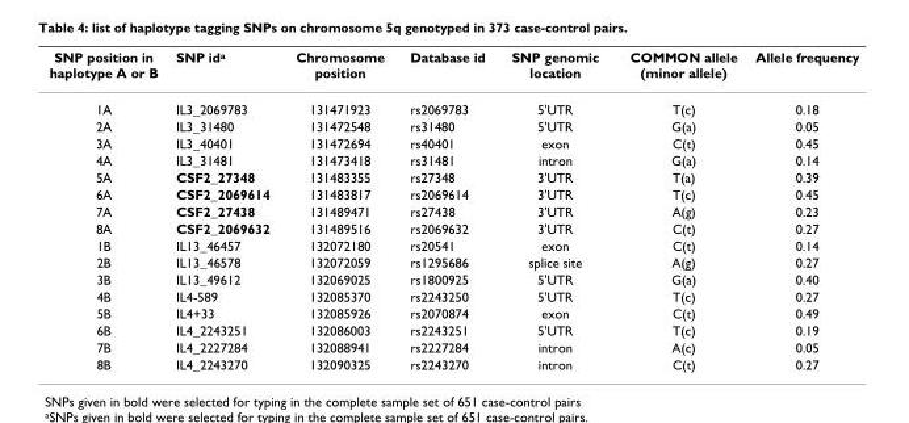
<table><thead><tr><td>SNP position in haplotype A or B</td><td>SNP id<sup>a</sup></td><td>Chromosome position</td><td>Database id</td><td>SNP genomic location</td><td>COMMON allele (minor allele)</td><td>Allele frequency</td></tr></thead><tbody><tr><td>1A</td><td>IL3_2069783</td><td>131471923</td><td>rs2069783</td><td>5&#x27;UTR</td><td>T(c)</td><td>0.18</td></tr><tr><td>2A</td><td>IL3_31480</td><td>131472548</td><td>rs31480</td><td>5&#x27;UTR</td><td>G(a)</td><td>0.05</td></tr><tr><td>3A</td><td>IL3_40401</td><td>131472694</td><td>rs40401</td><td>exon</td><td>C(t)</td><td>0.45</td></tr><tr><td>4A</td><td>IL3_31481</td><td>131473418</td><td>rs31481</td><td>intron</td><td>G(a)</td><td>0.14</td></tr><tr><td>5A</td><td>CSF2_27348</td><td>131483355</td><td>rs27348</td><td>3&#x27;UTR</td><td>T(a)</td><td>0.39</td></tr><tr><td>6A</td><td>CSF2_2069614</td><td>131483817</td><td>rs2069614</td><td>3&#x27;UTR</td><td>T(c)</td><td>0.45</td></tr><tr><td>7A</td><td>CSF2_27438</td><td>131489471</td><td>rs27438</td><td>3&#x27;UTR</td><td>A(g)</td><td>0.23</td></tr><tr><td>8A</td><td>CSF2_2069632</td><td>131489516</td><td>rs2069632</td><td>3&#x27;UTR</td><td>C(t)</td><td>0.27</td></tr><tr><td>1B</td><td>IL13_46457</td><td>132072180</td><td>rs20541</td><td>exon</td><td>C(t)</td><td>0.14</td></tr><tr><td>2B</td><td>IL13_46578</td><td>132072059</td><td>rs1295686</td><td>splice site</td><td>A(g)</td><td>0.27</td></tr><tr><td>3B</td><td>IL13_49612</td><td>132069025</td><td>rs1800925</td><td>5&#x27;UTR</td><td>G(a)</td><td>0.40</td></tr><tr><td>4B</td><td>IL4-589</td><td>132085370</td><td>rs2243250</td><td>5&#x27;UTR</td><td>T(c)</td><td>0.27</td></tr><tr><td>5B</td><td>IL4+33</td><td>132085926</td><td>rs2070874</td><td>exon</td><td>C(t)</td><td>0.49</td></tr><tr><td>6B</td><td>IL4_2243251</td><td>132086003</td><td>rs2243251</td><td>5&#x27;UTR</td><td>T(c)</td><td>0.19</td></tr><tr><td>7B</td><td>IL4_2227284</td><td>132088941</td><td>rs2227284</td><td>intron</td><td>A(c)</td><td>0.05</td></tr><tr><td>8B</td><td>IL4_2243270</td><td>132090325</td><td>rs2243270</td><td>intron</td><td>C(t)</td><td>0.27</td></tr></tbody></table>